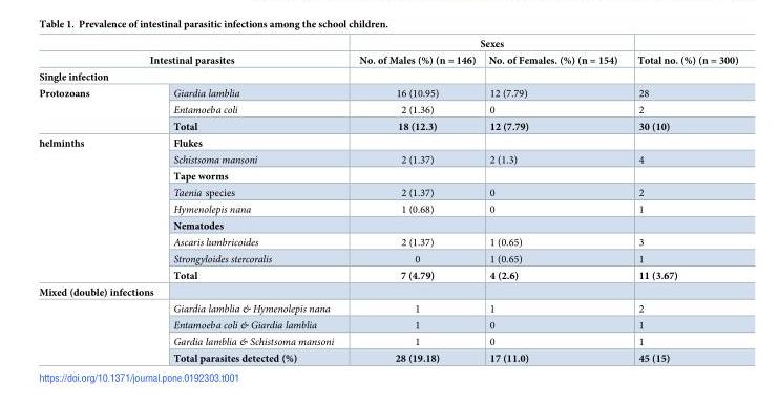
<table><thead><tr><td></td><td></td><td colspan="2">Sexes</td><td rowspan="2">Total no. (%) (n = 300)</td></tr><tr><td colspan="2">Intestinal parasites</td><td>No. of Males (%) (n = 146)</td><td>No. of Females. (%) (n = 154)</td></tr></thead><tbody><tr><td colspan="5">Single infection</td></tr><tr><td rowspan="3">Protozoans</td><td>Giardia lamblia</td><td>16 (10.95)</td><td>12 (7.79)</td><td>28</td></tr><tr><td>Entamoeba coli</td><td>2 (1.36)</td><td>0</td><td>2</td></tr><tr><td>Total</td><td>18 (12.3)</td><td>12 (7.79)</td><td>30 (10)</td></tr><tr><td rowspan="9">helminths</td><td>Flukes</td><td></td><td></td><td></td></tr><tr><td>Schistsoma mansoni</td><td>2 (1.37)</td><td>2 (1.3)</td><td>4</td></tr><tr><td>Tape worms</td><td></td><td></td><td></td></tr><tr><td>Taenia species</td><td>2 (1.37)</td><td>0</td><td>2</td></tr><tr><td>Hymenolepis nana</td><td>1 (0.68)</td><td>0</td><td>1</td></tr><tr><td>Nematodes</td><td></td><td></td><td></td></tr><tr><td>Ascaris lumbricoides</td><td>2 (1.37)</td><td>1 (0.65)</td><td>3</td></tr><tr><td>Strongyloides stercoralis</td><td>0</td><td>1 (0.65)</td><td>1</td></tr><tr><td>Total</td><td>7 (4.79)</td><td>4 (2.6)</td><td>11 (3.67)</td></tr><tr><td colspan="5">Mixed (double) infections</td></tr><tr><td rowspan="4"></td><td>Giardia lamblia &amp; Hymenolepis nana</td><td>1</td><td>1</td><td>2</td></tr><tr><td>Entamoeba coli &amp; Giardia lamblia</td><td>1</td><td>0</td><td>1</td></tr><tr><td>Gardia lamblia &amp; Schistsoma mansoni</td><td>1</td><td>0</td><td>1</td></tr><tr><td>Total parasites detected (%)</td><td>28 (19.18)</td><td>17 (11.0)</td><td>45 (15)</td></tr></tbody></table>